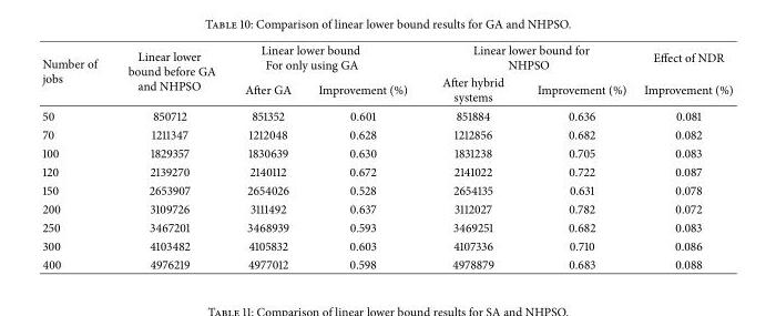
<table><thead><tr><td rowspan="2">Number of jobs</td><td rowspan="2">Linear lower bound before GA and NHPSO</td><td colspan="2">Linear lower bound For only using GA</td><td colspan="2">Linear lower bound for NHPSO</td><td rowspan="2">Effect of NDR Improvement (%)</td></tr><tr><td>After GA</td><td>Improvement (%)</td><td>After hybrid systems</td><td>Improvement (%)</td></tr></thead><tbody><tr><td>50</td><td>850712</td><td>851352</td><td>0.601</td><td>851884</td><td>0.636</td><td>0.081</td></tr><tr><td>70</td><td>1211347</td><td>1212048</td><td>0.628</td><td>1212856</td><td>0.682</td><td>0.082</td></tr><tr><td>100</td><td>1829357</td><td>1830639</td><td>0.630</td><td>1831238</td><td>0.705</td><td>0.083</td></tr><tr><td>120</td><td>2139270</td><td>2140112</td><td>0.672</td><td>2141022</td><td>0.722</td><td>0.087</td></tr><tr><td>150</td><td>2653907</td><td>2654026</td><td>0.528</td><td>2654135</td><td>0.631</td><td>0.078</td></tr><tr><td>200</td><td>3109726</td><td>3111492</td><td>0.637</td><td>3112027</td><td>0.782</td><td>0.072</td></tr><tr><td>250</td><td>3467201</td><td>3468939</td><td>0.593</td><td>3469251</td><td>0.682</td><td>0.083</td></tr><tr><td>300</td><td>4103482</td><td>4105832</td><td>0.603</td><td>4107336</td><td>0.710</td><td>0.086</td></tr><tr><td>400</td><td>4976219</td><td>4977012</td><td>0.598</td><td>4978879</td><td>0.683</td><td>0.088</td></tr></tbody></table>